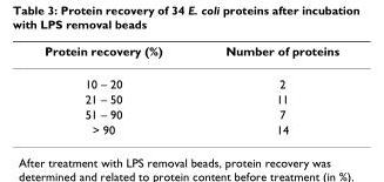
<table><thead><tr><td>Protein recovery (%)</td><td>Number of proteins</td></tr></thead><tbody><tr><td>10 – 20</td><td>2</td></tr><tr><td>21 – 50</td><td>11</td></tr><tr><td>51 – 90</td><td>7</td></tr><tr><td>&gt; 90</td><td>14</td></tr></tbody></table>